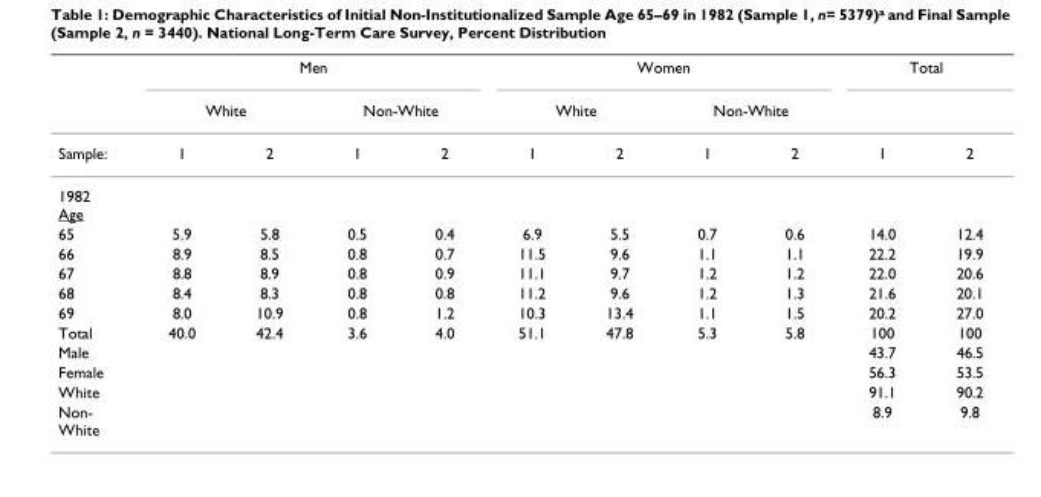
<table><thead><tr><td rowspan="3">Sample:</td><td colspan="4">Men</td><td colspan="4">Women</td><td colspan="2">Total</td></tr><tr><td colspan="2">White</td><td colspan="2">Non-White</td><td colspan="2">White</td><td colspan="2">Non-White</td><td rowspan="2">1</td><td rowspan="2">2</td></tr><tr><td>1</td><td>2</td><td>1</td><td>2</td><td>1</td><td>2</td><td>1</td><td>2</td></tr></thead><tbody><tr><td colspan="11">1982 Age</td></tr><tr><td>65</td><td>5.9</td><td>5.8</td><td>0.5</td><td>0.4</td><td>6.9</td><td>5.5</td><td>0.7</td><td>0.6</td><td>14.0</td><td>12.4</td></tr><tr><td>66</td><td>8.9</td><td>8.5</td><td>0.8</td><td>0.7</td><td>11.5</td><td>9.6</td><td>1.1</td><td>1.1</td><td>22.2</td><td>19.9</td></tr><tr><td>67</td><td>8.8</td><td>8.9</td><td>0.8</td><td>0.9</td><td>11.1</td><td>9.7</td><td>1.2</td><td>1.2</td><td>22.0</td><td>20.6</td></tr><tr><td>68</td><td>8.4</td><td>8.3</td><td>0.8</td><td>0.8</td><td>11.2</td><td>9.6</td><td>1.2</td><td>1.3</td><td>21.6</td><td>20.1</td></tr><tr><td>69</td><td>8.0</td><td>10.9</td><td>0.8</td><td>1.2</td><td>10.3</td><td>13.4</td><td>1.1</td><td>1.5</td><td>20.2</td><td>27.0</td></tr><tr><td>Total</td><td>40.0</td><td>42.4</td><td>3.6</td><td>4.0</td><td>51.1</td><td>47.8</td><td>5.3</td><td>5.8</td><td>100</td><td>100</td></tr><tr><td>Male</td><td></td><td></td><td></td><td></td><td></td><td></td><td></td><td></td><td>43.7</td><td>46.5</td></tr><tr><td>Female</td><td></td><td></td><td></td><td></td><td></td><td></td><td></td><td></td><td>56.3</td><td>53.5</td></tr><tr><td>White</td><td></td><td></td><td></td><td></td><td></td><td></td><td></td><td></td><td>91.1</td><td>90.2</td></tr><tr><td>Non- White</td><td></td><td></td><td></td><td></td><td></td><td></td><td></td><td></td><td>8.9</td><td>9.8</td></tr></tbody></table>